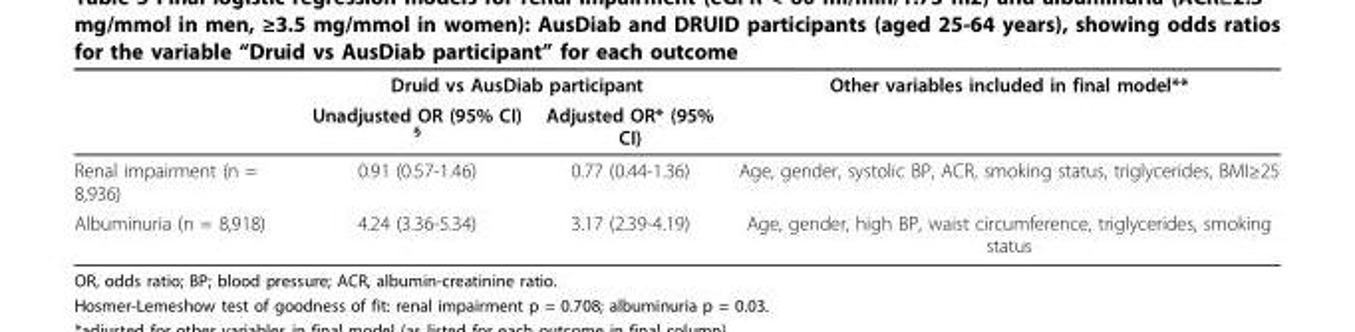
<table><thead><tr><td rowspan="2"></td><td colspan="2">Druid vs AusDiab participant</td><td rowspan="2">Other variables included in final model**</td></tr><tr><td>Unadjusted OR (95% CI) <sup>§</sup></td><td>Adjusted OR* (95% CI)</td></tr></thead><tbody><tr><td>Renal impairment (n = 8,936)</td><td>0.91 (0.57-1.46)</td><td>0.77 (0.44-1.36)</td><td>Age, gender, systolic BP, ACR, smoking status, triglycerides, BMI≥25</td></tr><tr><td>Albuminuria (n = 8,918)</td><td>4.24 (3.36-5.34)</td><td>3.17 (2.39-4.19)</td><td>Age, gender, high BP, waist circumference, triglycerides, smoking status</td></tr></tbody></table>